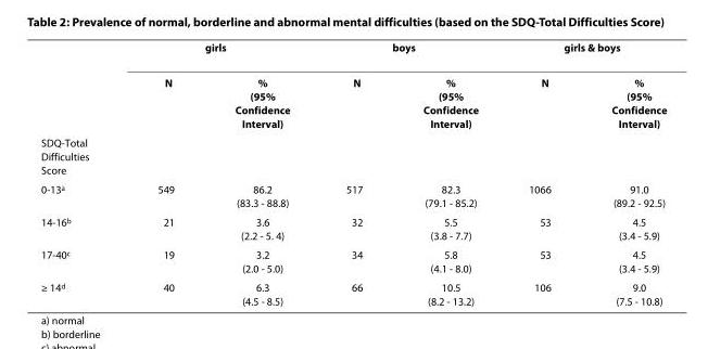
<table><thead><tr><td rowspan="2"></td><td colspan="2">girls</td><td colspan="3">boys</td><td rowspan="2">girls &amp; boys % (95% Confidence Interval)</td></tr><tr><td>N</td><td>% (95% Confidence Interval)</td><td>N</td><td>% (95% Confidence Interval)</td><td>N</td></tr></thead><tbody><tr><td colspan="7">SDQ-Total Difficulties Score</td></tr><tr><td>0-13<sup>a</sup></td><td>549</td><td>86.2 (83.3 - 88.8)</td><td>517</td><td>82.3 (79.1 - 85.2)</td><td>1066</td><td>91.0 (89.2 - 92.5)</td></tr><tr><td>14-16<sup>b</sup></td><td>21</td><td>3.6 (2.2 - 5. 4)</td><td>32</td><td>5.5 (3.8 - 7.7)</td><td>53</td><td>4.5 (3.4 - 5.9)</td></tr><tr><td>17-40<sup>c</sup></td><td>19</td><td>3.2 (2.0 - 5.0)</td><td>34</td><td>5.8 (4.1 - 8.0)</td><td>53</td><td>4.5 (3.4 - 5.9)</td></tr><tr><td>≥ 14<sup>d</sup></td><td>40</td><td>6.3 (4.5 - 8.5)</td><td>66</td><td>10.5 (8.2 - 13.2)</td><td>106</td><td>9.0 (7.5 - 10.8)</td></tr></tbody></table>